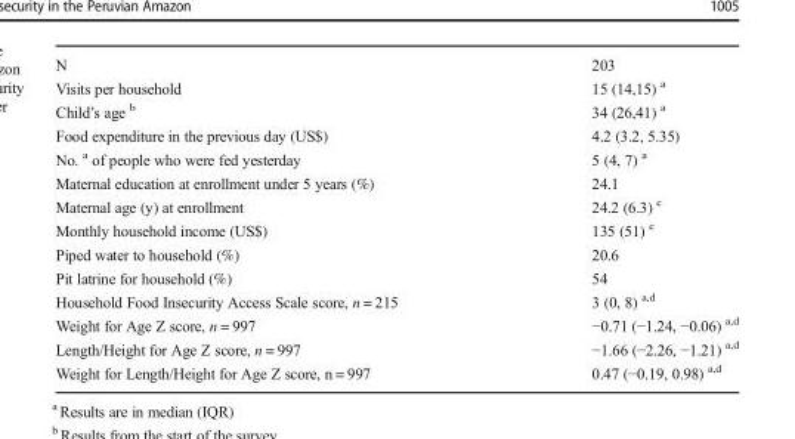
<table><tbody><tr><td>N</td><td>203</td></tr><tr><td>Visits per household</td><td>15 (14,15) <sup>a</sup></td></tr><tr><td>Child’s age <sup>b</sup></td><td>34 (26,41) <sup>a</sup></td></tr><tr><td>Food expenditure in the previous day (US$)</td><td>4.2 (3.2, 5.35)</td></tr><tr><td>No. <sup>a</sup> of people who were fed yesterday</td><td>5 (4, 7) <sup>a</sup></td></tr><tr><td>Maternal education at enrollment under 5 years (%)</td><td>24.1</td></tr><tr><td>Maternal age (y) at enrollment</td><td>24.2 (6.3) <sup>c</sup></td></tr><tr><td>Monthly household income (US$)</td><td>135 (51) <sup>c</sup></td></tr><tr><td>Piped water to household (%)</td><td>20.6</td></tr><tr><td>Pit latrine for household (%)</td><td>54</td></tr><tr><td>Household Food Insecurity Access Scale score, n = 215</td><td>3 (0, 8) <sup>a,d</sup></td></tr><tr><td>Weight for Age Z score, n = 997</td><td>−0.71 (−1.24, −0.06) <sup>a,d</sup></td></tr><tr><td>Length/Height for Age Z score, n = 997</td><td>−1.66 (−2.26, −1.21) <sup>a,d</sup></td></tr><tr><td>Weight for Length/Height for Age Z score, n = 997</td><td>0.47 (−0.19, 0.98) <sup>a,d</sup></td></tr></tbody></table>